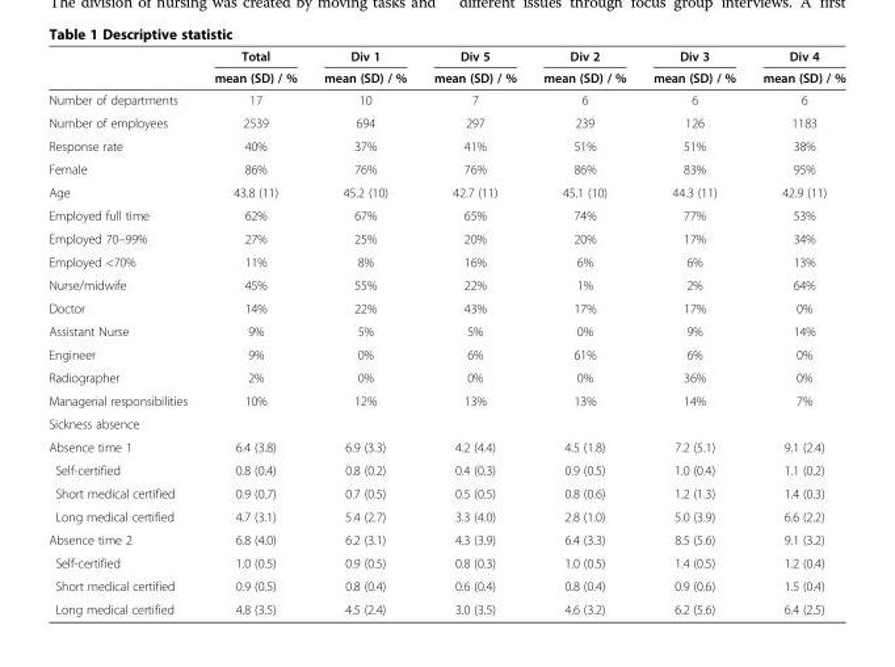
<table><thead><tr><td rowspan="2"></td><td rowspan="2">Total mean (SD) / %</td><td rowspan="2">Div 1 mean (SD) / %</td><td rowspan="2">Div 5 mean (SD) / %</td><td rowspan="2">Div 2 mean (SD) / %</td><td rowspan="2">Div 3 mean (SD) / %</td><td rowspan="2">Div 4 mean (SD) / %</td></tr><tr></tr></thead><tbody><tr><td>Number of departments</td><td>17</td><td>10</td><td>7</td><td>6</td><td>6</td><td>6</td></tr><tr><td>Number of employees</td><td>2539</td><td>694</td><td>297</td><td>239</td><td>126</td><td>1183</td></tr><tr><td>Response rate</td><td>40%</td><td>37%</td><td>41%</td><td>51%</td><td>51%</td><td>38%</td></tr><tr><td>Female</td><td>86%</td><td>76%</td><td>76%</td><td>86%</td><td>83%</td><td>95%</td></tr><tr><td>Age</td><td>43.8 (11)</td><td>45.2 (10)</td><td>42.7 (11)</td><td>45.1 (10)</td><td>44.3 (11)</td><td>42.9 (11)</td></tr><tr><td>Employed full time</td><td>62%</td><td>67%</td><td>65%</td><td>74%</td><td>77%</td><td>53%</td></tr><tr><td>Employed 70–99%</td><td>27%</td><td>25%</td><td>20%</td><td>20%</td><td>17%</td><td>34%</td></tr><tr><td>Employed &lt;70%</td><td>11%</td><td>8%</td><td>16%</td><td>6%</td><td>6%</td><td>13%</td></tr><tr><td>Nurse/midwife</td><td>45%</td><td>55%</td><td>22%</td><td>1%</td><td>2%</td><td>64%</td></tr><tr><td>Doctor</td><td>14%</td><td>22%</td><td>43%</td><td>17%</td><td>17%</td><td>0%</td></tr><tr><td>Assistant Nurse</td><td>9%</td><td>5%</td><td>5%</td><td>0%</td><td>9%</td><td>14%</td></tr><tr><td>Engineer</td><td>9%</td><td>0%</td><td>6%</td><td>61%</td><td>6%</td><td>0%</td></tr><tr><td>Radiographer</td><td>2%</td><td>0%</td><td>0%</td><td>0%</td><td>36%</td><td>0%</td></tr><tr><td>Managerial responsibilities</td><td>10%</td><td>12%</td><td>13%</td><td>13%</td><td>14%</td><td>7%</td></tr><tr><td colspan="7">Sickness absence</td></tr><tr><td>Absence time 1</td><td>6.4 (3.8)</td><td>6.9 (3.3)</td><td>4.2 (4.4)</td><td>4.5 (1.8)</td><td>7.2 (5.1)</td><td>9.1 (2.4)</td></tr><tr><td>Self-certified</td><td>0.8 (0.4)</td><td>0.8 (0.2)</td><td>0.4 (0.3)</td><td>0.9 (0.5)</td><td>1.0 (0.4)</td><td>1.1 (0.2)</td></tr><tr><td>Short medical certified</td><td>0.9 (0.7)</td><td>0.7 (0.5)</td><td>0.5 (0.5)</td><td>0.8 (0.6)</td><td>1.2 (1.3)</td><td>1.4 (0.3)</td></tr><tr><td>Long medical certified</td><td>4.7 (3.1)</td><td>5.4 (2.7)</td><td>3.3 (4.0)</td><td>2.8 (1.0)</td><td>5.0 (3.9)</td><td>6.6 (2.2)</td></tr><tr><td>Absence time 2</td><td>6.8 (4.0)</td><td>6.2 (3.1)</td><td>4.3 (3.9)</td><td>6.4 (3.3)</td><td>8.5 (5.6)</td><td>9.1 (3.2)</td></tr><tr><td>Self-certified</td><td>1.0 (0.5)</td><td>0.9 (0.5)</td><td>0.8 (0.3)</td><td>1.0 (0.5)</td><td>1.4 (0.5)</td><td>1.2 (0.4)</td></tr><tr><td>Short medical certified</td><td>0.9 (0.5)</td><td>0.8 (0.4)</td><td>0.6 (0.4)</td><td>0.8 (0.4)</td><td>0.9 (0.6)</td><td>1.5 (0.4)</td></tr><tr><td>Long medical certified</td><td>4.8 (3.5)</td><td>4.5 (2.4)</td><td>3.0 (3.5)</td><td>4.6 (3.2)</td><td>6.2 (5.6)</td><td>6.4 (2.5)</td></tr></tbody></table>